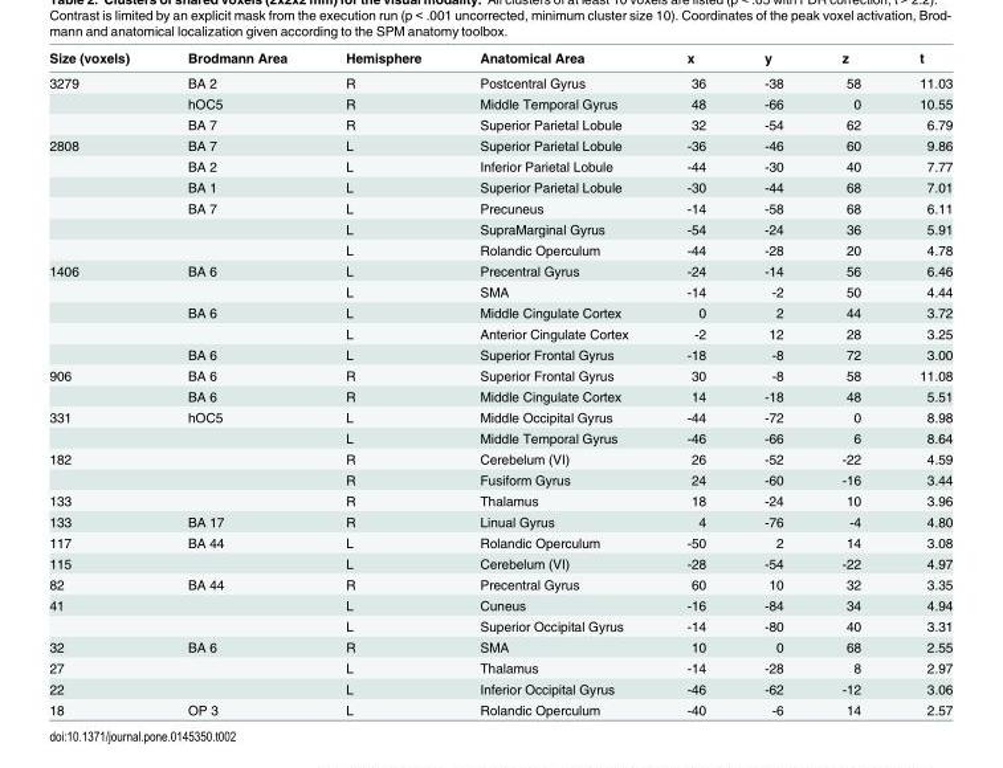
<table><thead><tr><td>Size (voxels)</td><td>Brodmann Area</td><td>Hemisphere</td><td>Anatomical Area</td><td>x</td><td>y</td><td>z</td><td>t</td></tr></thead><tbody><tr><td rowspan="3">3279</td><td>BA 2</td><td>R</td><td>Postcentral Gyrus</td><td>36</td><td>-38</td><td>58</td><td>11.03</td></tr><tr><td>hOC5</td><td>R</td><td>Middle Temporal Gyrus</td><td>48</td><td>-66</td><td>0</td><td>10.55</td></tr><tr><td>BA 7</td><td>R</td><td>Superior Parietal Lobule</td><td>32</td><td>-54</td><td>62</td><td>6.79</td></tr><tr><td rowspan="6">2808</td><td>BA 7</td><td>L</td><td>Superior Parietal Lobule</td><td>-36</td><td>-46</td><td>60</td><td>9.86</td></tr><tr><td>BA 2</td><td>L</td><td>Inferior Parietal Lobule</td><td>-44</td><td>-30</td><td>40</td><td>7.77</td></tr><tr><td>BA 1</td><td>L</td><td>Superior Parietal Lobule</td><td>-30</td><td>-44</td><td>68</td><td>7.01</td></tr><tr><td>BA 7</td><td>L</td><td>Precuneus</td><td>-14</td><td>-58</td><td>68</td><td>6.11</td></tr><tr><td></td><td>L</td><td>SupraMarginal Gyrus</td><td>-54</td><td>-24</td><td>36</td><td>5.91</td></tr><tr><td></td><td>L</td><td>Rolandic Operculum</td><td>-44</td><td>-28</td><td>20</td><td>4.78</td></tr><tr><td rowspan="5">1406</td><td>BA 6</td><td>L</td><td>Precentral Gyrus</td><td>-24</td><td>-14</td><td>56</td><td>6.46</td></tr><tr><td></td><td>L</td><td>SMA</td><td>-14</td><td>-2</td><td>50</td><td>4.44</td></tr><tr><td>BA 6</td><td>L</td><td>Middle Cingulate Cortex</td><td>0</td><td>2</td><td>44</td><td>3.72</td></tr><tr><td></td><td>L</td><td>Anterior Cingulate Cortex</td><td>-2</td><td>12</td><td>28</td><td>3.25</td></tr><tr><td>BA 6</td><td>L</td><td>Superior Frontal Gyrus</td><td>-18</td><td>-8</td><td>72</td><td>3.00</td></tr><tr><td rowspan="2">906</td><td>BA 6</td><td>R</td><td>Superior Frontal Gyrus</td><td>30</td><td>-8</td><td>58</td><td>11.08</td></tr><tr><td>BA 6</td><td>R</td><td>Middle Cingulate Cortex</td><td>14</td><td>-18</td><td>48</td><td>5.51</td></tr><tr><td rowspan="2">331</td><td>hOC5</td><td>L</td><td>Middle Occipital Gyrus</td><td>-44</td><td>-72</td><td>0</td><td>8.98</td></tr><tr><td></td><td>L</td><td>Middle Temporal Gyrus</td><td>-46</td><td>-66</td><td>6</td><td>8.64</td></tr><tr><td rowspan="2">182</td><td></td><td>R</td><td>Cerebelum (VI)</td><td>26</td><td>-52</td><td>-22</td><td>4.59</td></tr><tr><td></td><td>R</td><td>Fusiform Gyrus</td><td>24</td><td>-60</td><td>-16</td><td>3.44</td></tr><tr><td>133</td><td></td><td>R</td><td>Thalamus</td><td>18</td><td>-24</td><td>10</td><td>3.96</td></tr><tr><td>133</td><td>BA 17</td><td>R</td><td>Linual Gyrus</td><td>4</td><td>-76</td><td>-4</td><td>4.80</td></tr><tr><td>117</td><td>BA 44</td><td>L</td><td>Rolandic Operculum</td><td>-50</td><td>2</td><td>14</td><td>3.08</td></tr><tr><td>115</td><td></td><td>L</td><td>Cerebelum (VI)</td><td>-28</td><td>-54</td><td>-22</td><td>4.97</td></tr><tr><td>82</td><td>BA 44</td><td>R</td><td>Precentral Gyrus</td><td>60</td><td>10</td><td>32</td><td>3.35</td></tr><tr><td rowspan="2">41</td><td></td><td>L</td><td>Cuneus</td><td>-16</td><td>-84</td><td>34</td><td>4.94</td></tr><tr><td></td><td>L</td><td>Superior Occipital Gyrus</td><td>-14</td><td>-80</td><td>40</td><td>3.31</td></tr><tr><td>32</td><td>BA 6</td><td>R</td><td>SMA</td><td>10</td><td>0</td><td>68</td><td>2.55</td></tr><tr><td>27</td><td></td><td>L</td><td>Thalamus</td><td>-14</td><td>-28</td><td>8</td><td>2.97</td></tr><tr><td>22</td><td></td><td>L</td><td>Inferior Occipital Gyrus</td><td>-46</td><td>-62</td><td>-12</td><td>3.06</td></tr><tr><td>18</td><td>OP 3</td><td>L</td><td>Rolandic Operculum</td><td>-40</td><td>-6</td><td>14</td><td>2.57</td></tr></tbody></table>